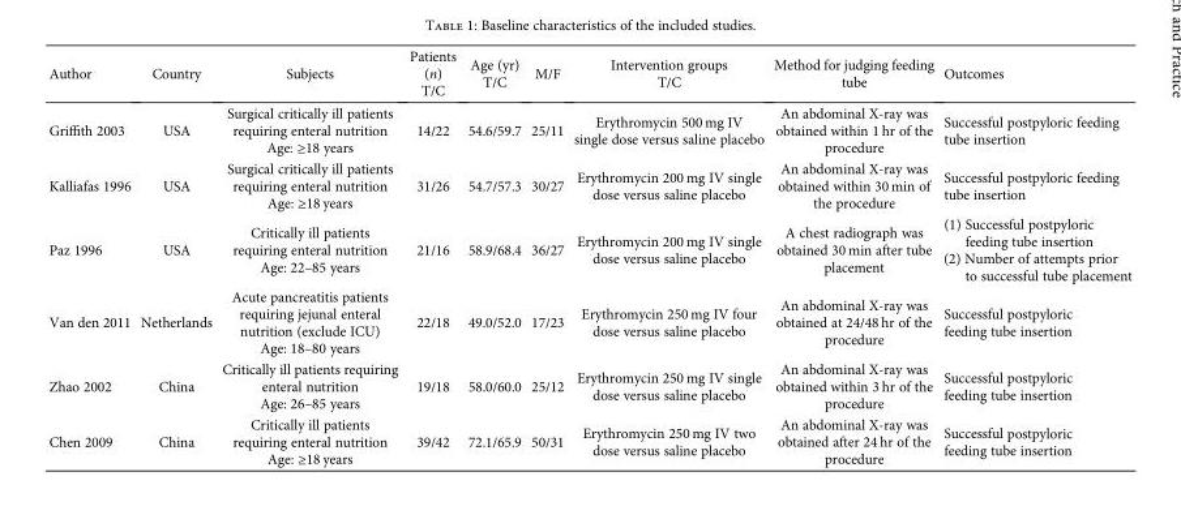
<table><thead><tr><td>Author</td><td>Country</td><td>Subjects</td><td>Patients (n) T/C</td><td>Age (yr) T/C</td><td>M/F</td><td>Intervention groups T/C</td><td>Method for judging feeding tube</td><td>Outcomes</td></tr></thead><tbody><tr><td>Griffith 2003</td><td>USA</td><td>Surgical critically ill patients requiring enteral nutrition Age: ≥18 years</td><td>14/22</td><td>54.6/59.7</td><td>25/11</td><td>Erythromycin 500 mg IV single dose versus saline placebo</td><td>An abdominal X-ray was obtained within 1 hr of the procedure</td><td>Successful postpyloric feeding tube insertion</td></tr><tr><td>Kalliafas 1996</td><td>USA</td><td>Surgical critically ill patients requiring enteral nutrition Age: ≥18 years</td><td>31/26</td><td>54.7/57.3</td><td>30/27</td><td>Erythromycin 200 mg IV single dose versus saline placebo</td><td>An abdominal X-ray was obtained within 30 min of the procedure</td><td>Successful postpyloric feeding tube insertion</td></tr><tr><td>Paz 1996</td><td>USA</td><td>Critically ill patients requiring enteral nutrition Age: 22–85 years</td><td>21/16</td><td>58.9/68.4</td><td>36/27</td><td>Erythromycin 200 mg IV single dose versus saline placebo</td><td>A chest radiograph was obtained 30 min after tube placement</td><td>(1) Successful postpyloric feeding tube insertion (2) Number of attempts prior to successful tube placement</td></tr><tr><td>Van den 2011</td><td>Netherlands</td><td>Acute pancreatitis patients requiring jejunal enteral nutrition (exclude ICU) Age: 18–80 years</td><td>22/18</td><td>49.0/52.0</td><td>17/23</td><td>Erythromycin 250 mg IV four dose versus saline placebo</td><td>An abdominal X-ray was obtained at 24/48 hr of the procedure</td><td>Successful postpyloric feeding tube insertion</td></tr><tr><td>Zhao 2002</td><td>China</td><td>Critically ill patients requiring enteral nutrition Age: 26–85 years</td><td>19/18</td><td>58.0/60.0</td><td>25/12</td><td>Erythromycin 250 mg IV single dose versus saline placebo</td><td>An abdominal X-ray was obtained within 3 hr of the procedure</td><td>Successful postpyloric feeding tube insertion</td></tr><tr><td>Chen 2009</td><td>China</td><td>Critically ill patients requiring enteral nutrition Age: ≥18 years</td><td>39/42</td><td>72.1/65.9</td><td>50/31</td><td>Erythromycin 250 mg IV two dose versus saline placebo</td><td>An abdominal X-ray was obtained after 24 hr of the procedure</td><td>Successful postpyloric feeding tube insertion</td></tr></tbody></table>